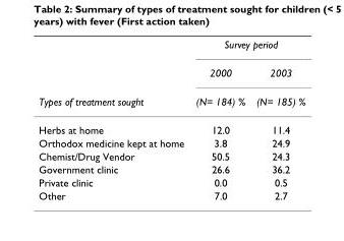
<table><thead><tr><td rowspan="3">Types of treatment sought</td><td colspan="2">Survey period</td></tr><tr><td rowspan="2">2000 (N= 184) %</td><td rowspan="2">2003 (N= 185) %</td></tr><tr></tr></thead><tbody><tr><td>Herbs at home</td><td>12.0</td><td>11.4</td></tr><tr><td>Orthodox medicine kept at home</td><td>3.8</td><td>24.9</td></tr><tr><td>Chemist/Drug Vendor</td><td>50.5</td><td>24.3</td></tr><tr><td>Government clinic</td><td>26.6</td><td>36.2</td></tr><tr><td>Private clinic</td><td>0.0</td><td>0.5</td></tr><tr><td>Other</td><td>7.0</td><td>2.7</td></tr></tbody></table>